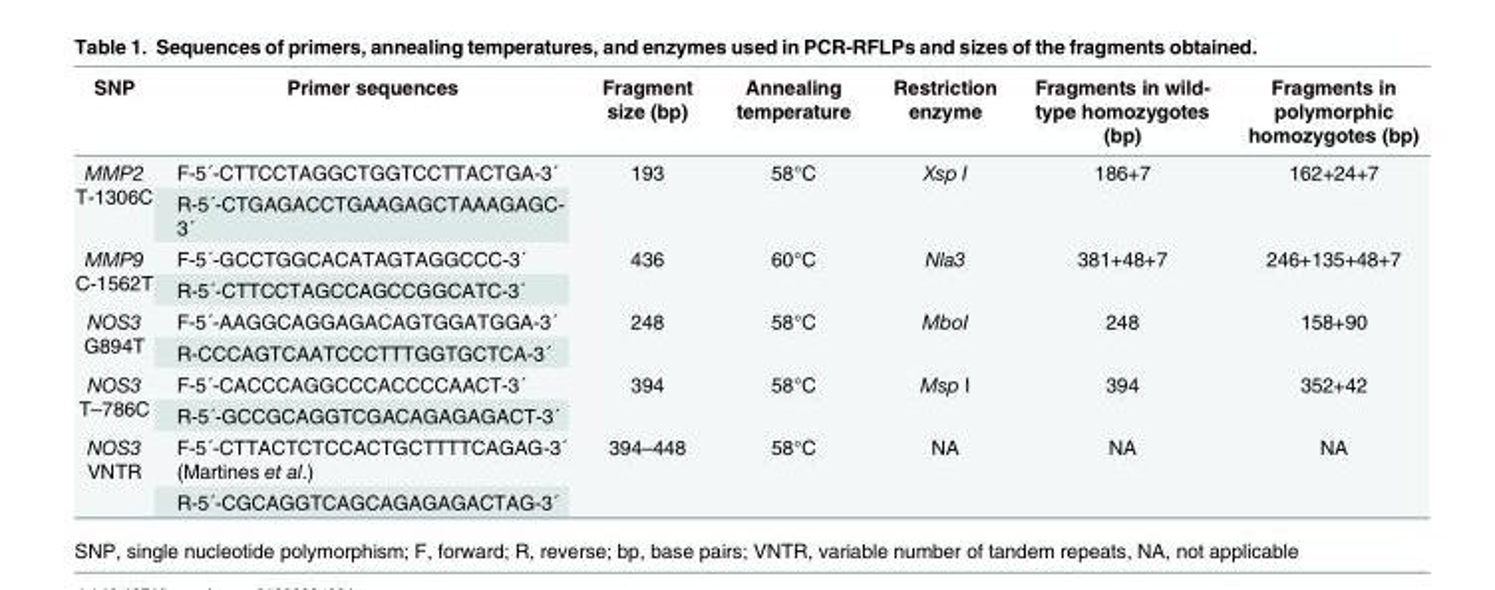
<table><thead><tr><td>SNP</td><td>Primer sequences</td><td>Fragment size (bp)</td><td>Annealing temperature</td><td>Restriction enzyme</td><td>Fragments in wild- type homozygotes (bp)</td><td>Fragments in polymorphic homozygotes (bp)</td></tr></thead><tbody><tr><td rowspan="2">MMP2 T-1306C</td><td>F-5´-CTTCCTAGGCTGGTCCTTACTGA-3´</td><td rowspan="2">193</td><td rowspan="2">58°C</td><td rowspan="2">Xsp I</td><td rowspan="2">186+7</td><td rowspan="2">162+24+7</td></tr><tr><td>R-5´-CTGAGACCTGAAGAGCTAAAGAGC- 3´</td></tr><tr><td rowspan="2">MMP9 C-1562T</td><td>F-5´-GCCTGGCACATAGTAGGCCC-3´</td><td rowspan="2">436</td><td rowspan="2">60°C</td><td rowspan="2">Nla3</td><td rowspan="2">381+48+7</td><td rowspan="2">246+135+48+7</td></tr><tr><td>R-5´-CTTCCTAGCCAGCCGGCATC-3´</td></tr><tr><td rowspan="2">NOS3 G894T</td><td>F-5´-AAGGCAGGAGACAGTGGATGGA-3´</td><td rowspan="2">248</td><td rowspan="2">58°C</td><td rowspan="2">MboI</td><td rowspan="2">248</td><td rowspan="2">158+90</td></tr><tr><td>R-CCCAGTCAATCCCTTTGGTGCTCA-3´</td></tr><tr><td rowspan="2">NOS3 T–786C</td><td>F-5´-CACCCAGGCCCACCCCAACT-3´</td><td rowspan="2">394</td><td rowspan="2">58°C</td><td rowspan="2">Msp I</td><td rowspan="2">394</td><td rowspan="2">352+42</td></tr><tr><td>R-5´-GCCGCAGGTCGACAGAGAGACT-3´</td></tr><tr><td rowspan="2">NOS3 VNTR</td><td>F-5´-CTTACTCTCCACTGCTTTTCAGAG-3´ (Martines et al.)</td><td rowspan="2">394–448</td><td rowspan="2">58°C</td><td rowspan="2">NA</td><td rowspan="2">NA</td><td rowspan="2">NA</td></tr><tr><td>R-5´-CGCAGGTCAGCAGAGAGACTAG-3´</td></tr></tbody></table>